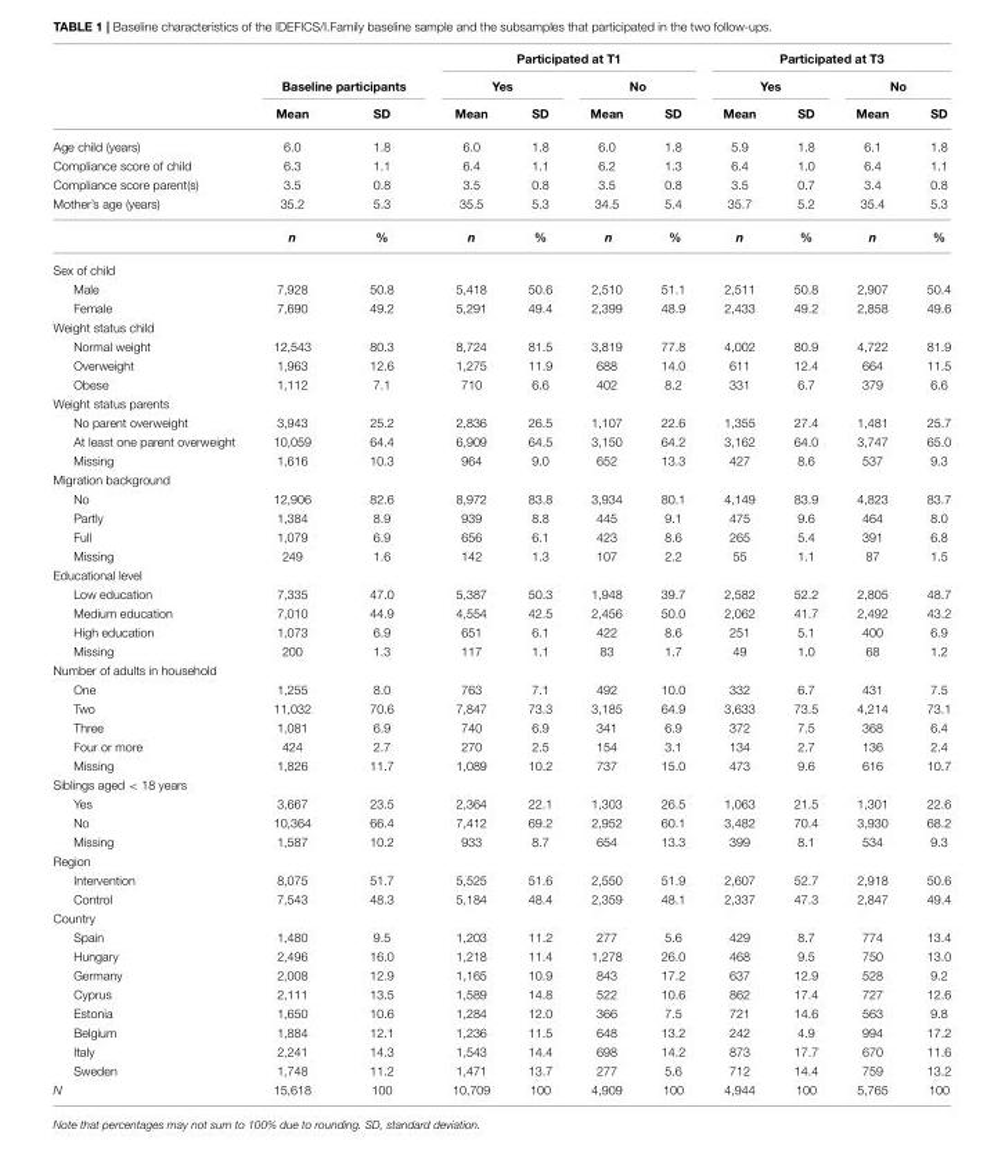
<table><thead><tr><td rowspan="3"></td><td></td><td></td><td colspan="4">Participated at T1</td><td colspan="4">Participated at T3</td></tr><tr><td colspan="2">Baseline participants</td><td colspan="2">Yes</td><td colspan="2">No</td><td colspan="2">Yes</td><td colspan="2">No</td></tr><tr><td>Mean</td><td>SD</td><td>Mean</td><td>SD</td><td>Mean</td><td>SD</td><td>Mean</td><td>SD</td><td>Mean</td><td>SD</td></tr></thead><tbody><tr><td>Age child (years)</td><td>6.0</td><td>1.8</td><td>6.0</td><td>1.8</td><td>6.0</td><td>1.8</td><td>5.9</td><td>1.8</td><td>6.1</td><td>1.8</td></tr><tr><td>Compliance score of child</td><td>6.3</td><td>1.1</td><td>6.4</td><td>1.1</td><td>6.2</td><td>1.3</td><td>6.4</td><td>1.0</td><td>6.4</td><td>1.1</td></tr><tr><td>Compliance score parent(s)</td><td>3.5</td><td>0.8</td><td>3.5</td><td>0.8</td><td>3.5</td><td>0.8</td><td>3.5</td><td>0.7</td><td>3.4</td><td>0.8</td></tr><tr><td rowspan="2">Mother’s age (years)</td><td>35.2</td><td>5.3</td><td>35.5</td><td>5.3</td><td>34.5</td><td>5.4</td><td>35.7</td><td>5.2</td><td>35.4</td><td>5.3</td></tr><tr><td>n</td><td>%</td><td>n</td><td>%</td><td>n</td><td>%</td><td>n</td><td>%</td><td>n</td><td>%</td></tr><tr><td colspan="11">Sex of child</td></tr><tr><td>Male</td><td>7,928</td><td>50.8</td><td>5,418</td><td>50.6</td><td>2,510</td><td>51.1</td><td>2,511</td><td>50.8</td><td>2,907</td><td>50.4</td></tr><tr><td>Female</td><td>7,690</td><td>49.2</td><td>5,291</td><td>49.4</td><td>2,399</td><td>48.9</td><td>2,433</td><td>49.2</td><td>2,858</td><td>49.6</td></tr><tr><td colspan="11">Weight status child</td></tr><tr><td>Normal weight</td><td>12,543</td><td>80.3</td><td>8,724</td><td>81.5</td><td>3,819</td><td>77.8</td><td>4,002</td><td>80.9</td><td>4,722</td><td>81.9</td></tr><tr><td>Overweight</td><td>1,963</td><td>12.6</td><td>1,275</td><td>11.9</td><td>688</td><td>14.0</td><td>611</td><td>12.4</td><td>664</td><td>11.5</td></tr><tr><td>Obese</td><td>1,112</td><td>7.1</td><td>710</td><td>6.6</td><td>402</td><td>8.2</td><td>331</td><td>6.7</td><td>379</td><td>6.6</td></tr><tr><td colspan="11">Weight status parents</td></tr><tr><td>No parent overweight</td><td>3,943</td><td>25.2</td><td>2,836</td><td>26.5</td><td>1,107</td><td>22.6</td><td>1,355</td><td>27.4</td><td>1,481</td><td>25.7</td></tr><tr><td>At least one parent overweight</td><td>10,059</td><td>64.4</td><td>6,909</td><td>64.5</td><td>3,150</td><td>64.2</td><td>3,162</td><td>64.0</td><td>3,747</td><td>65.0</td></tr><tr><td>Missing</td><td>1,616</td><td>10.3</td><td>964</td><td>9.0</td><td>652</td><td>13.3</td><td>427</td><td>8.6</td><td>537</td><td>9.3</td></tr><tr><td colspan="11">Migration background</td></tr><tr><td>No</td><td>12,906</td><td>82.6</td><td>8,972</td><td>83.8</td><td>3,934</td><td>80.1</td><td>4,149</td><td>83.9</td><td>4,823</td><td>83.7</td></tr><tr><td>Partly</td><td>1,384</td><td>8.9</td><td>939</td><td>8.8</td><td>445</td><td>9.1</td><td>475</td><td>9.6</td><td>464</td><td>8.0</td></tr><tr><td>Full</td><td>1,079</td><td>6.9</td><td>656</td><td>6.1</td><td>423</td><td>8.6</td><td>265</td><td>5.4</td><td>391</td><td>6.8</td></tr><tr><td>Missing</td><td>249</td><td>1.6</td><td>142</td><td>1.3</td><td>107</td><td>2.2</td><td>55</td><td>1.1</td><td>87</td><td>1.5</td></tr><tr><td colspan="11">Educational level</td></tr><tr><td>Low education</td><td>7,335</td><td>47.0</td><td>5,387</td><td>50.3</td><td>1,948</td><td>39.7</td><td>2,582</td><td>52.2</td><td>2,805</td><td>48.7</td></tr><tr><td>Medium education</td><td>7,010</td><td>44.9</td><td>4,554</td><td>42.5</td><td>2,456</td><td>50.0</td><td>2,062</td><td>41.7</td><td>2,492</td><td>43.2</td></tr><tr><td>High education</td><td>1,073</td><td>6.9</td><td>651</td><td>6.1</td><td>422</td><td>8.6</td><td>251</td><td>5.1</td><td>400</td><td>6.9</td></tr><tr><td>Missing</td><td>200</td><td>1.3</td><td>117</td><td>1.1</td><td>83</td><td>1.7</td><td>49</td><td>1.0</td><td>68</td><td>1.2</td></tr><tr><td colspan="11">Number of adults in household</td></tr><tr><td>One</td><td>1,255</td><td>8.0</td><td>763</td><td>7.1</td><td>492</td><td>10.0</td><td>332</td><td>6.7</td><td>431</td><td>7.5</td></tr><tr><td>Two</td><td>11,032</td><td>70.6</td><td>7,847</td><td>73.3</td><td>3,185</td><td>64.9</td><td>3,633</td><td>73.5</td><td>4,214</td><td>73.1</td></tr><tr><td>Three</td><td>1,081</td><td>6.9</td><td>740</td><td>6.9</td><td>341</td><td>6.9</td><td>372</td><td>7.5</td><td>368</td><td>6.4</td></tr><tr><td>Four or more</td><td>424</td><td>2.7</td><td>270</td><td>2.5</td><td>154</td><td>3.1</td><td>134</td><td>2.7</td><td>136</td><td>2.4</td></tr><tr><td>Missing</td><td>1,826</td><td>11.7</td><td>1,089</td><td>10.2</td><td>737</td><td>15.0</td><td>473</td><td>9.6</td><td>616</td><td>10.7</td></tr><tr><td colspan="11">Siblings aged &lt; 18 years</td></tr><tr><td>Yes</td><td>3,667</td><td>23.5</td><td>2,364</td><td>22.1</td><td>1,303</td><td>26.5</td><td>1,063</td><td>21.5</td><td>1,301</td><td>22.6</td></tr><tr><td>No</td><td>10,364</td><td>66.4</td><td>7,412</td><td>69.2</td><td>2,952</td><td>60.1</td><td>3,482</td><td>70.4</td><td>3,930</td><td>68.2</td></tr><tr><td>Missing</td><td>1,587</td><td>10.2</td><td>933</td><td>8.7</td><td>654</td><td>13.3</td><td>399</td><td>8.1</td><td>534</td><td>9.3</td></tr><tr><td colspan="11">Region</td></tr><tr><td>Intervention</td><td>8,075</td><td>51.7</td><td>5,525</td><td>51.6</td><td>2,550</td><td>51.9</td><td>2,607</td><td>52.7</td><td>2,918</td><td>50.6</td></tr><tr><td>Control</td><td>7,543</td><td>48.3</td><td>5,184</td><td>48.4</td><td>2,359</td><td>48.1</td><td>2,337</td><td>47.3</td><td>2,847</td><td>49.4</td></tr><tr><td colspan="11">Country</td></tr><tr><td>Spain</td><td>1,480</td><td>9.5</td><td>1,203</td><td>11.2</td><td>277</td><td>5.6</td><td>429</td><td>8.7</td><td>774</td><td>13.4</td></tr><tr><td>Hungary</td><td>2,496</td><td>16.0</td><td>1,218</td><td>11.4</td><td>1,278</td><td>26.0</td><td>468</td><td>9.5</td><td>750</td><td>13.0</td></tr><tr><td>Germany</td><td>2,008</td><td>12.9</td><td>1,165</td><td>10.9</td><td>843</td><td>17.2</td><td>637</td><td>12.9</td><td>528</td><td>9.2</td></tr><tr><td>Cyprus</td><td>2,111</td><td>13.5</td><td>1,589</td><td>14.8</td><td>522</td><td>10.6</td><td>862</td><td>17.4</td><td>727</td><td>12.6</td></tr><tr><td>Estonia</td><td>1,650</td><td>10.6</td><td>1,284</td><td>12.0</td><td>366</td><td>7.5</td><td>721</td><td>14.6</td><td>563</td><td>9.8</td></tr><tr><td>Belgium</td><td>1,884</td><td>12.1</td><td>1,236</td><td>11.5</td><td>648</td><td>13.2</td><td>242</td><td>4.9</td><td>994</td><td>17.2</td></tr><tr><td>Italy</td><td>2,241</td><td>14.3</td><td>1,543</td><td>14.4</td><td>698</td><td>14.2</td><td>873</td><td>17.7</td><td>670</td><td>11.6</td></tr><tr><td>Sweden</td><td>1,748</td><td>11.2</td><td>1,471</td><td>13.7</td><td>277</td><td>5.6</td><td>712</td><td>14.4</td><td>759</td><td>13.2</td></tr><tr><td>N</td><td>15,618</td><td>100</td><td>10,709</td><td>100</td><td>4,909</td><td>100</td><td>4,944</td><td>100</td><td>5,765</td><td>100</td></tr></tbody></table>